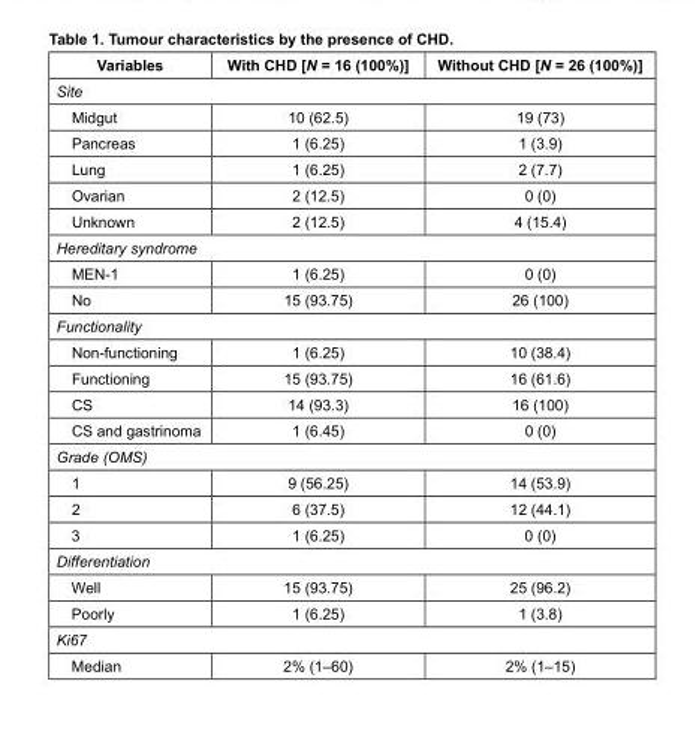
<table><thead><tr><td>Variables</td><td>With CHD [N = 16 (100%)]</td><td>Without CHD [N = 26 (100%)]</td></tr></thead><tbody><tr><td colspan="3">Site</td></tr><tr><td>Midgut</td><td>10 (62.5)</td><td>19 (73)</td></tr><tr><td>Pancreas</td><td>1 (6.25)</td><td>1 (3.9)</td></tr><tr><td>Lung</td><td>1 (6.25)</td><td>2 (7.7)</td></tr><tr><td>Ovarian</td><td>2 (12.5)</td><td>0 (0)</td></tr><tr><td>Unknown</td><td>2 (12.5)</td><td>4 (15.4)</td></tr><tr><td colspan="3">Hereditary syndrome</td></tr><tr><td>MEN-1</td><td>1 (6.25)</td><td>0 (0)</td></tr><tr><td>No</td><td>15 (93.75)</td><td>26 (100)</td></tr><tr><td colspan="3">Functionality</td></tr><tr><td>Non-functioning</td><td>1 (6.25)</td><td>10 (38.4)</td></tr><tr><td>Functioning</td><td>15 (93.75)</td><td>16 (61.6)</td></tr><tr><td>CS</td><td>14 (93.3)</td><td>16 (100)</td></tr><tr><td>CS and gastrinoma</td><td>1 (6.45)</td><td>0 (0)</td></tr><tr><td colspan="3">Grade (OMS)</td></tr><tr><td>1</td><td>9 (56.25)</td><td>14 (53.9)</td></tr><tr><td>2</td><td>6 (37.5)</td><td>12 (44.1)</td></tr><tr><td>3</td><td>1 (6.25)</td><td>0 (0)</td></tr><tr><td colspan="3">Differentiation</td></tr><tr><td>Well</td><td>15 (93.75)</td><td>25 (96.2)</td></tr><tr><td>Poorly</td><td>1 (6.25)</td><td>1 (3.8)</td></tr><tr><td colspan="3">Ki67</td></tr><tr><td>Median</td><td>2% (1–60)</td><td>2% (1–15)</td></tr></tbody></table>